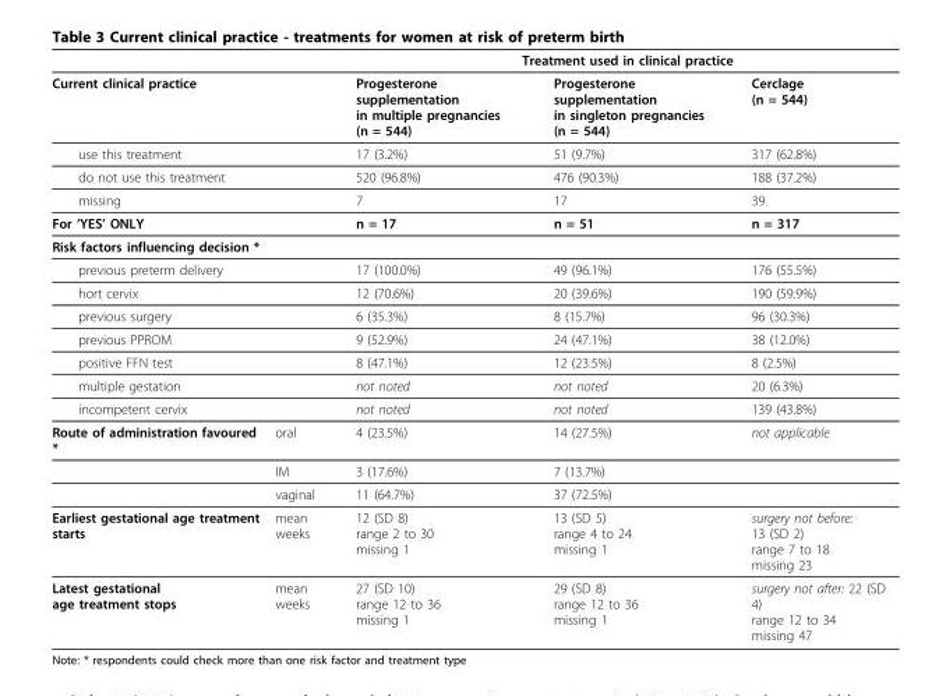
<table><thead><tr><td></td><td></td><td colspan="3">Treatment used in clinical practice</td></tr><tr><td colspan="2">Current clinical practice</td><td>Progesterone supplementation in multiple pregnancies (n = 544)</td><td>Progesterone supplementation in singleton pregnancies (n = 544)</td><td>Cerclage (n = 544)</td></tr></thead><tbody><tr><td colspan="2">use this treatment</td><td>17 (3.2%)</td><td>51 (9.7%)</td><td>317 (62.8%)</td></tr><tr><td colspan="2">do not use this treatment</td><td>520 (96.8%)</td><td>476 (90.3%)</td><td>188 (37.2%)</td></tr><tr><td colspan="2">missing</td><td>7</td><td>17</td><td>39</td></tr><tr><td colspan="2">For ‘YES’ ONLY</td><td>n = 17</td><td>n = 51</td><td>n = 317</td></tr><tr><td colspan="5">Risk factors influencing decision *</td></tr><tr><td colspan="2">previous preterm delivery</td><td>17 (100.0%)</td><td>49 (96.1%)</td><td>176 (55.5%)</td></tr><tr><td colspan="2">hort cervix</td><td>12 (70.6%)</td><td>20 (39.6%)</td><td>190 (59.9%)</td></tr><tr><td colspan="2">previous surgery</td><td>6 (35.3%)</td><td>8 (15.7%)</td><td>96 (30.3%)</td></tr><tr><td colspan="2">previous PPROM</td><td>9 (52.9%)</td><td>24 (47.1%)</td><td>38 (12.0%)</td></tr><tr><td colspan="2">positive FFN test</td><td>8 (47.1%)</td><td>12 (23.5%)</td><td>8 (2.5%)</td></tr><tr><td colspan="2">multiple gestation</td><td>not noted</td><td>not noted</td><td>20 (6.3%)</td></tr><tr><td colspan="2">incompetent cervix</td><td>not noted</td><td>not noted</td><td>139 (43.8%)</td></tr><tr><td rowspan="3">Route of administration favoured *</td><td>oral</td><td>4 (23.5%)</td><td>14 (27.5%)</td><td>not applicable</td></tr><tr><td>IM</td><td>3 (17.6%)</td><td>7 (13.7%)</td><td></td></tr><tr><td>vaginal</td><td>11 (64.7%)</td><td>37 (72.5%)</td><td></td></tr><tr><td>Earliest gestational age treatment starts</td><td>mean weeks</td><td>12 (SD 8) range 2 to 30 missing 1</td><td>13 (SD 5) range 4 to 24 missing 1</td><td>surgery not before: 13 (SD 2) range 7 to 18 missing 23</td></tr><tr><td>Latest gestational age treatment stops</td><td>mean weeks</td><td>27 (SD 10) range 12 to 36 missing 1</td><td>29 (SD 8) range 12 to 36 missing 1</td><td>surgery not after: 22 (SD 4) range 12 to 34 missing 47</td></tr></tbody></table>